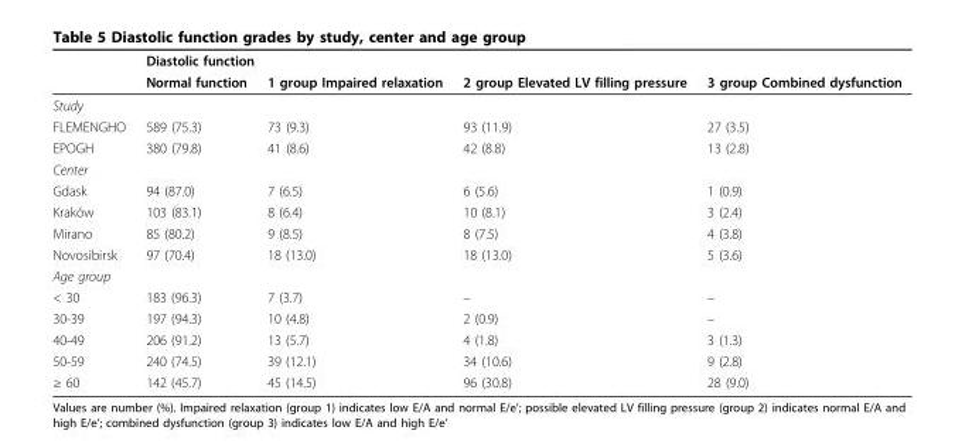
<table><thead><tr><td rowspan="2"></td><td colspan="4">Diastolic function</td></tr><tr><td>Normal function</td><td>1 group Impaired relaxation</td><td>2 group Elevated LV filling pressure</td><td>3 group Combined dysfunction</td></tr></thead><tbody><tr><td colspan="5">Study</td></tr><tr><td>FLEMENGHO</td><td>589 (75.3)</td><td>73 (9.3)</td><td>93 (11.9)</td><td>27 (3.5)</td></tr><tr><td>EPOGH</td><td>380 (79.8)</td><td>41 (8.6)</td><td>42 (8.8)</td><td>13 (2.8)</td></tr><tr><td colspan="5">Center</td></tr><tr><td>Gdask</td><td>94 (87.0)</td><td>7 (6.5)</td><td>6 (5.6)</td><td>1 (0.9)</td></tr><tr><td>Kraków</td><td>103 (83.1)</td><td>8 (6.4)</td><td>10 (8.1)</td><td>3 (2.4)</td></tr><tr><td>Mirano</td><td>85 (80.2)</td><td>9 (8.5)</td><td>8 (7.5)</td><td>4 (3.8)</td></tr><tr><td>Novosibirsk</td><td>97 (70.4)</td><td>18 (13.0)</td><td>18 (13.0)</td><td>5 (3.6)</td></tr><tr><td colspan="5">Age group</td></tr><tr><td>&lt; 30</td><td>183 (96.3)</td><td>7 (3.7)</td><td>–</td><td>–</td></tr><tr><td>30-39</td><td>197 (94.3)</td><td>10 (4.8)</td><td>2 (0.9)</td><td>–</td></tr><tr><td>40-49</td><td>206 (91.2)</td><td>13 (5.7)</td><td>4 (1.8)</td><td>3 (1.3)</td></tr><tr><td>50-59</td><td>240 (74.5)</td><td>39 (12.1)</td><td>34 (10.6)</td><td>9 (2.8)</td></tr><tr><td>≥ 60</td><td>142 (45.7)</td><td>45 (14.5)</td><td>96 (30.8)</td><td>28 (9.0)</td></tr></tbody></table>